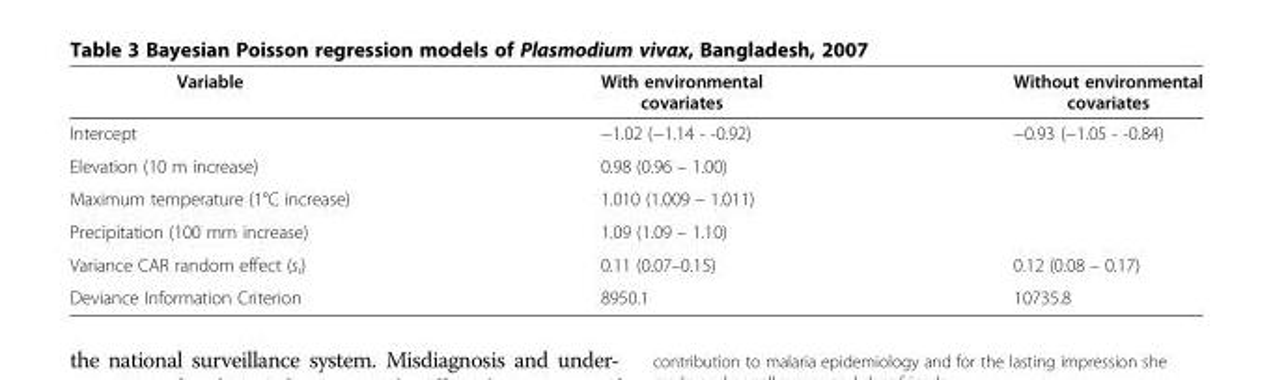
<table><thead><tr><td>Variable</td><td>With environmental covariates</td><td>Without environmental covariates</td></tr></thead><tbody><tr><td>Intercept</td><td>−1.02 (−1.14 - -0.92)</td><td>−0.93 (−1.05 - -0.84)</td></tr><tr><td>Elevation (10 m increase)</td><td>0.98 (0.96 – 1.00)</td><td></td></tr><tr><td>Maximum temperature (1°C increase)</td><td>1.010 (1.009 – 1.011)</td><td></td></tr><tr><td>Precipitation (100 mm increase)</td><td>1.09 (1.09 – 1.10)</td><td></td></tr><tr><td>Variance CAR random effect (s<sub>i</sub>)</td><td>0.11 (0.07–0.15)</td><td>0.12 (0.08 – 0.17)</td></tr><tr><td>Deviance Information Criterion</td><td>8950.1</td><td>10735.8</td></tr></tbody></table>